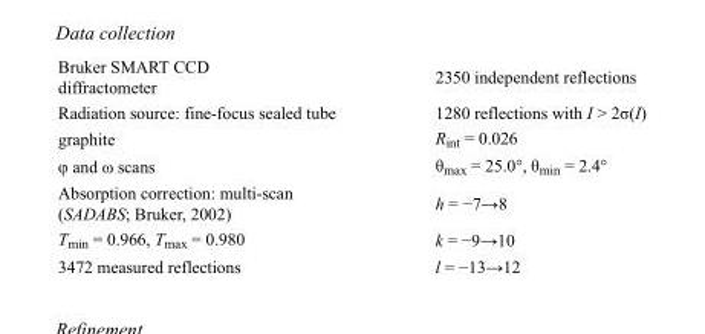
<table><tbody><tr><td>Bruker SMART CCD diffractometer</td><td>2350 independent reflections</td></tr><tr><td>Radiation source: fine-focus sealed tube</td><td>1280 reflections with I &gt; 2σ(I)</td></tr><tr><td>graphite</td><td>R<sub>int</sub> = 0.026</td></tr><tr><td>φ and ω scans</td><td>θ<sub>max</sub> = 25.0°, θ<sub>min</sub> = 2.4°</td></tr><tr><td>Absorption correction: multi-scan (SADABS; Bruker, 2002)</td><td>h = −7→8</td></tr><tr><td>T<sub>min</sub> = 0.966, T<sub>max</sub> = 0.980</td><td>k = −9→10</td></tr><tr><td>3472 measured reflections</td><td>l = −13→12</td></tr></tbody></table>